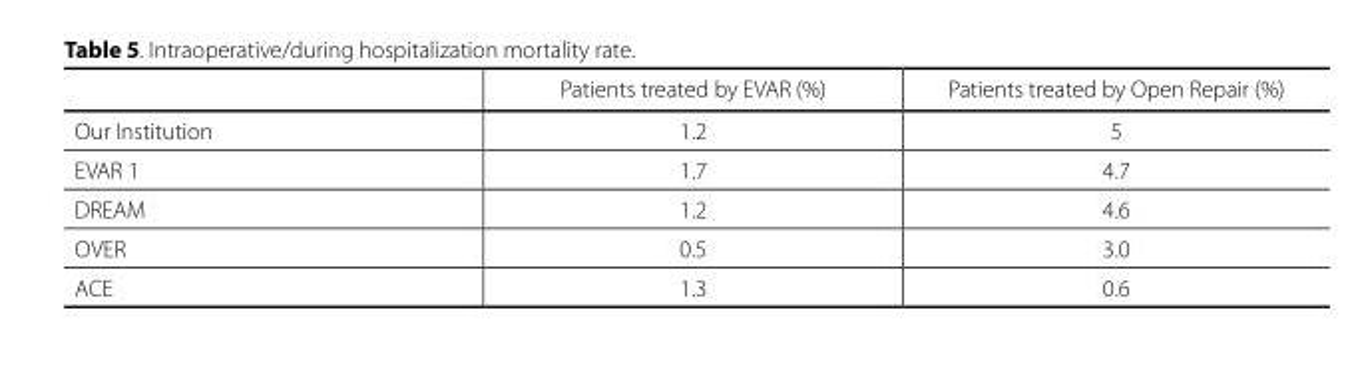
<table><thead><tr><td></td><td>Patients treated by EVAR (%)</td><td>Patients treated by Open Repair (%)</td></tr></thead><tbody><tr><td>Our Institution</td><td>1.2</td><td>5</td></tr><tr><td>EVAR 1</td><td>1.7</td><td>4.7</td></tr><tr><td>DREAM</td><td>1.2</td><td>4.6</td></tr><tr><td>OVER</td><td>0.5</td><td>3.0</td></tr><tr><td>ACE</td><td>1.3</td><td>0.6</td></tr></tbody></table>